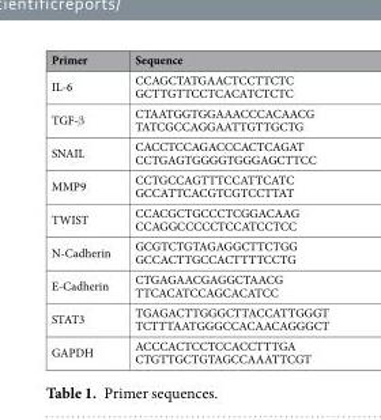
<table><thead><tr><td>Primer</td><td>Sequence</td></tr></thead><tbody><tr><td>IL-6</td><td>CCAGCTATGAACTCCTTCTC GCTTGTTCCTCACATCTCTC</td></tr><tr><td>TGF-β</td><td>CTAATGGTGGAAACCCACAACG TATCGCCAGGAATTGTTGCTG</td></tr><tr><td>SNAIL</td><td>CACCTCCAGACCCACTCAGAT CCTGAGTGGGGTGGGAGCTTCC</td></tr><tr><td>MMP9</td><td>CCTGCCAGTTTCCATTCATC GCCATTCACGTCGTCCTTAT</td></tr><tr><td>TWIST</td><td>CCACGCTGCCCTCGGACAAG CCAGGCCCCCTCCATCCTCC</td></tr><tr><td>N-Cadherin</td><td>GCGTCTGTAGAGGCTTCTGG GCCACTTGCCACTTTTCCTG</td></tr><tr><td>E-Cadherin</td><td>CTGAGAACGAGGCTAACG TTCACATCCAGCACATCC</td></tr><tr><td>STAT3</td><td>TGAGACTTGGGCTTACCATTGGGT TCTTTAATGGGCCACAACAGGGCT</td></tr><tr><td>GAPDH</td><td>ACCCACTCCTCCACCTTTGA CTGTTGCTGTAGCCAAATTCGT</td></tr></tbody></table>